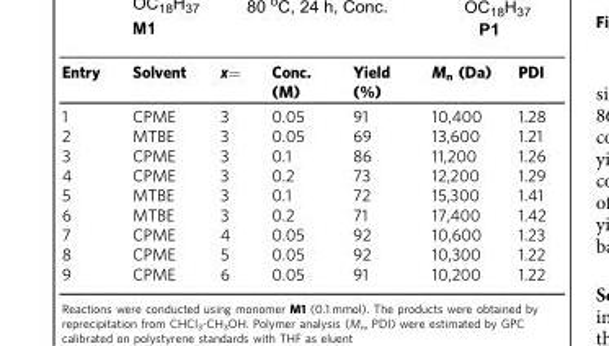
<table><thead><tr><td>Entry</td><td>Solvent</td><td>x=</td><td>Conc. (M)</td><td>Yield (%)</td><td>M<sub>n</sub> (Da)</td><td>PDI</td></tr></thead><tbody><tr><td>1</td><td>CPME</td><td>3</td><td>0.05</td><td>91</td><td>10,400</td><td>1.28</td></tr><tr><td>2</td><td>MTBE</td><td>3</td><td>0.05</td><td>69</td><td>13,600</td><td>1.21</td></tr><tr><td>3</td><td>CPME</td><td>3</td><td>0.1</td><td>86</td><td>11,200</td><td>1.26</td></tr><tr><td>4</td><td>CPME</td><td>3</td><td>0.2</td><td>73</td><td>12,200</td><td>1.29</td></tr><tr><td>5</td><td>MTBE</td><td>3</td><td>0.1</td><td>72</td><td>15,300</td><td>1.41</td></tr><tr><td>6</td><td>MTBE</td><td>3</td><td>0.2</td><td>71</td><td>17,400</td><td>1.42</td></tr><tr><td>7</td><td>CPME</td><td>4</td><td>0.05</td><td>92</td><td>10,600</td><td>1.23</td></tr><tr><td>8</td><td>CPME</td><td>5</td><td>0.05</td><td>92</td><td>10,300</td><td>1.22</td></tr><tr><td>9</td><td>CPME</td><td>6</td><td>0.05</td><td>91</td><td>10,200</td><td>1.22</td></tr></tbody></table>